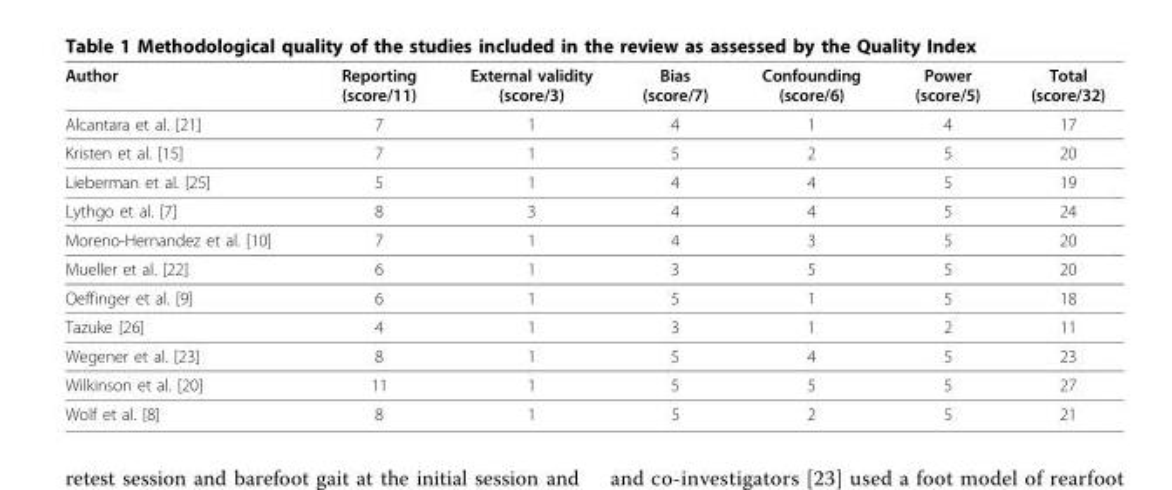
<table><thead><tr><td>Author</td><td>Reporting (score/11)</td><td>External validity (score/3)</td><td>Bias (score/7)</td><td>Confounding (score/6)</td><td>Power (score/5)</td><td>Total (score/32)</td></tr></thead><tbody><tr><td>Alcantara et al. [21]</td><td>7</td><td>1</td><td>4</td><td>1</td><td>4</td><td>17</td></tr><tr><td>Kristen et al. [15]</td><td>7</td><td>1</td><td>5</td><td>2</td><td>5</td><td>20</td></tr><tr><td>Lieberman et al. [25]</td><td>5</td><td>1</td><td>4</td><td>4</td><td>5</td><td>19</td></tr><tr><td>Lythgo et al. [7]</td><td>8</td><td>3</td><td>4</td><td>4</td><td>5</td><td>24</td></tr><tr><td>Moreno-Hernandez et al. [10]</td><td>7</td><td>1</td><td>4</td><td>3</td><td>5</td><td>20</td></tr><tr><td>Mueller et al. [22]</td><td>6</td><td>1</td><td>3</td><td>5</td><td>5</td><td>20</td></tr><tr><td>Oeffinger et al. [9]</td><td>6</td><td>1</td><td>5</td><td>1</td><td>5</td><td>18</td></tr><tr><td>Tazuke [26]</td><td>4</td><td>1</td><td>3</td><td>1</td><td>2</td><td>11</td></tr><tr><td>Wegener et al. [23]</td><td>8</td><td>1</td><td>5</td><td>4</td><td>5</td><td>23</td></tr><tr><td>Wilkinson et al. [20]</td><td>11</td><td>1</td><td>5</td><td>5</td><td>5</td><td>27</td></tr><tr><td>Wolf et al. [8]</td><td>8</td><td>1</td><td>5</td><td>2</td><td>5</td><td>21</td></tr></tbody></table>